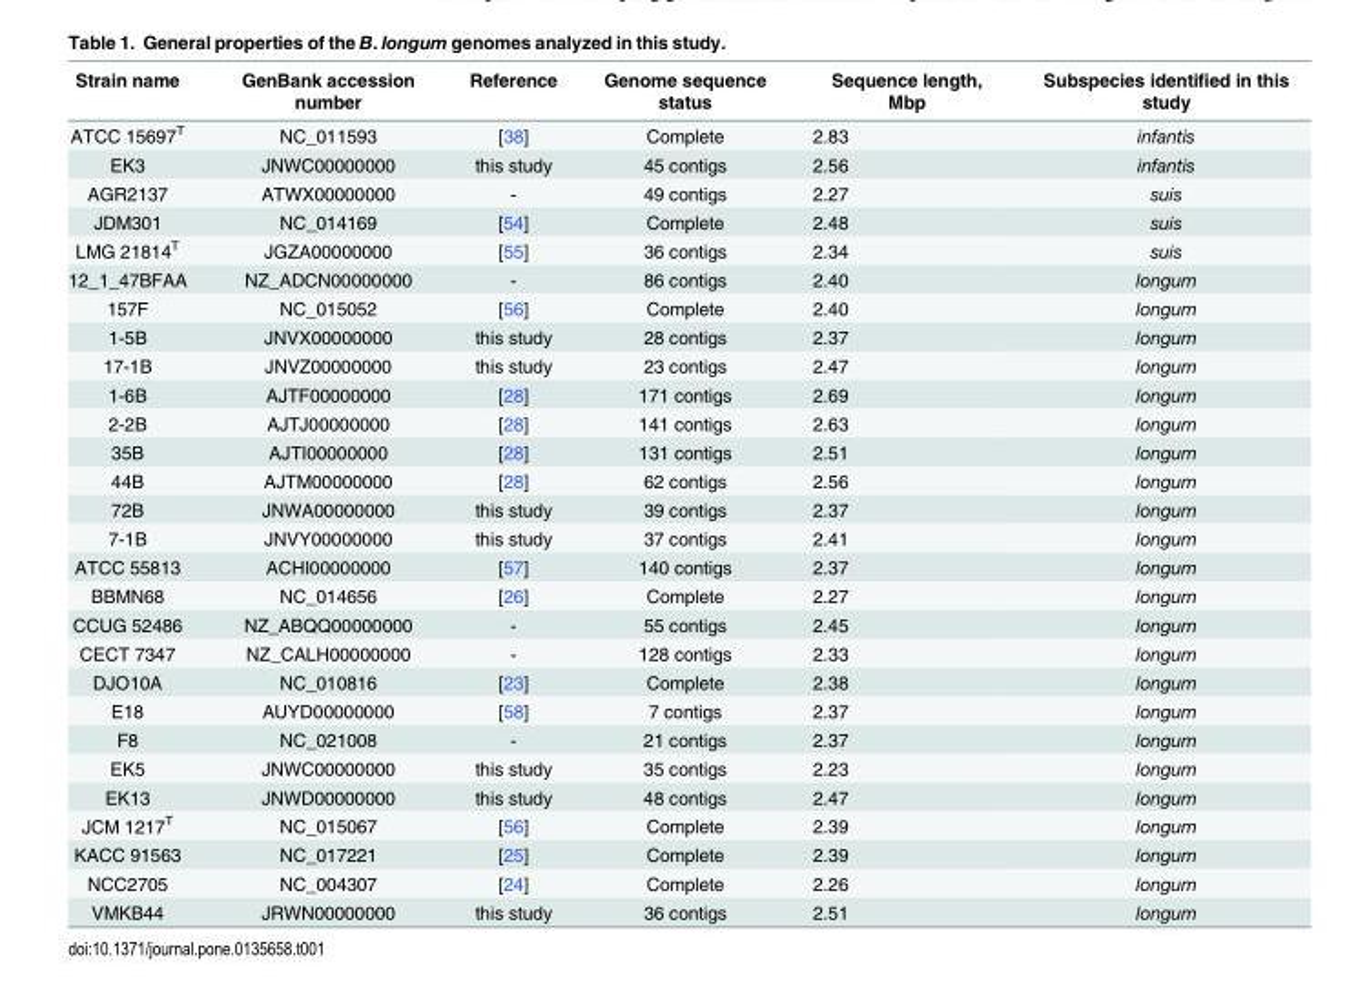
<table><thead><tr><td>Strain name</td><td>GenBank accession number</td><td>Reference</td><td>Genome sequence status</td><td>Sequence length, Mbp</td><td>Subspecies identified in this study</td></tr></thead><tbody><tr><td>ATCC 15697<sup>T</sup></td><td>NC_011593</td><td>[38]</td><td>Complete</td><td>2.83</td><td>infantis</td></tr><tr><td>EK3</td><td>JNWC00000000</td><td>this study</td><td>45 contigs</td><td>2.56</td><td>infantis</td></tr><tr><td>AGR2137</td><td>ATWX00000000</td><td>-</td><td>49 contigs</td><td>2.27</td><td>suis</td></tr><tr><td>JDM301</td><td>NC_014169</td><td>[54]</td><td>Complete</td><td>2.48</td><td>suis</td></tr><tr><td>LMG 21814<sup>T</sup></td><td>JGZA00000000</td><td>[55]</td><td>36 contigs</td><td>2.34</td><td>suis</td></tr><tr><td>12_1_47BFAA</td><td>NZ_ADCN00000000</td><td>-</td><td>86 contigs</td><td>2.40</td><td>longum</td></tr><tr><td>157F</td><td>NC_015052</td><td>[56]</td><td>Complete</td><td>2.40</td><td>longum</td></tr><tr><td>1-5B</td><td>JNVX00000000</td><td>this study</td><td>28 contigs</td><td>2.37</td><td>longum</td></tr><tr><td>17-1B</td><td>JNVZ00000000</td><td>this study</td><td>23 contigs</td><td>2.47</td><td>longum</td></tr><tr><td>1-6B</td><td>AJTF00000000</td><td>[28]</td><td>171 contigs</td><td>2.69</td><td>longum</td></tr><tr><td>2-2B</td><td>AJTJ00000000</td><td>[28]</td><td>141 contigs</td><td>2.63</td><td>longum</td></tr><tr><td>35B</td><td>AJTI00000000</td><td>[28]</td><td>131 contigs</td><td>2.51</td><td>longum</td></tr><tr><td>44B</td><td>AJTM00000000</td><td>[28]</td><td>62 contigs</td><td>2.56</td><td>longum</td></tr><tr><td>72B</td><td>JNWA00000000</td><td>this study</td><td>39 contigs</td><td>2.37</td><td>longum</td></tr><tr><td>7-1B</td><td>JNVY00000000</td><td>this study</td><td>37 contigs</td><td>2.41</td><td>longum</td></tr><tr><td>ATCC 55813</td><td>ACHI00000000</td><td>[57]</td><td>140 contigs</td><td>2.37</td><td>longum</td></tr><tr><td>BBMN68</td><td>NC_014656</td><td>[26]</td><td>Complete</td><td>2.27</td><td>longum</td></tr><tr><td>CCUG 52486</td><td>NZ_ABQQ00000000</td><td>-</td><td>55 contigs</td><td>2.45</td><td>longum</td></tr><tr><td>CECT 7347</td><td>NZ_CALH00000000</td><td>-</td><td>128 contigs</td><td>2.33</td><td>longum</td></tr><tr><td>DJO10A</td><td>NC_010816</td><td>[23]</td><td>Complete</td><td>2.38</td><td>longum</td></tr><tr><td>E18</td><td>AUYD00000000</td><td>[58]</td><td>7 contigs</td><td>2.37</td><td>longum</td></tr><tr><td>F8</td><td>NC_021008</td><td>-</td><td>21 contigs</td><td>2.37</td><td>longum</td></tr><tr><td>EK5</td><td>JNWC00000000</td><td>this study</td><td>35 contigs</td><td>2.23</td><td>longum</td></tr><tr><td>EK13</td><td>JNWD00000000</td><td>this study</td><td>48 contigs</td><td>2.47</td><td>longum</td></tr><tr><td>JCM 1217<sup>T</sup></td><td>NC_015067</td><td>[56]</td><td>Complete</td><td>2.39</td><td>longum</td></tr><tr><td>KACC 91563</td><td>NC_017221</td><td>[25]</td><td>Complete</td><td>2.39</td><td>longum</td></tr><tr><td>NCC2705</td><td>NC_004307</td><td>[24]</td><td>Complete</td><td>2.26</td><td>longum</td></tr><tr><td>VMKB44</td><td>JRWN00000000</td><td>this study</td><td>36 contigs</td><td>2.51</td><td>longum</td></tr></tbody></table>